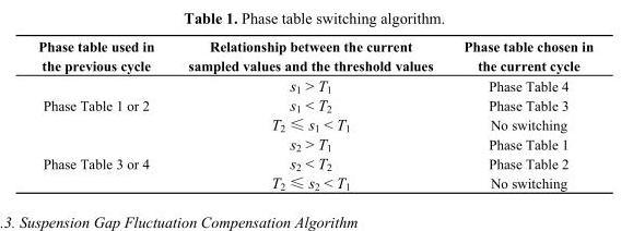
<table><thead><tr><td>Phase table used in the previous cycle</td><td>Relationship between the current sampled values and the threshold values</td><td>Phase table chosen in the current cycle</td></tr></thead><tbody><tr><td rowspan="3">Phase Table 1 or 2</td><td>s<sub>1</sub> &gt; T<sub>1</sub></td><td>Phase Table 4</td></tr><tr><td>s<sub>1</sub> &lt; T<sub>2</sub></td><td>Phase Table 3</td></tr><tr><td>T<sub>2</sub> ≤ s<sub>1</sub> &lt; T<sub>1</sub></td><td>No switching</td></tr><tr><td rowspan="3">Phase Table 3 or 4</td><td>s<sub>2</sub> &gt; T<sub>1</sub></td><td>Phase Table 1</td></tr><tr><td>s<sub>2</sub> &lt; T<sub>2</sub></td><td>Phase Table 2</td></tr><tr><td>T<sub>2</sub> ≤ s<sub>2</sub> &lt; T<sub>1</sub></td><td>No switching</td></tr></tbody></table>